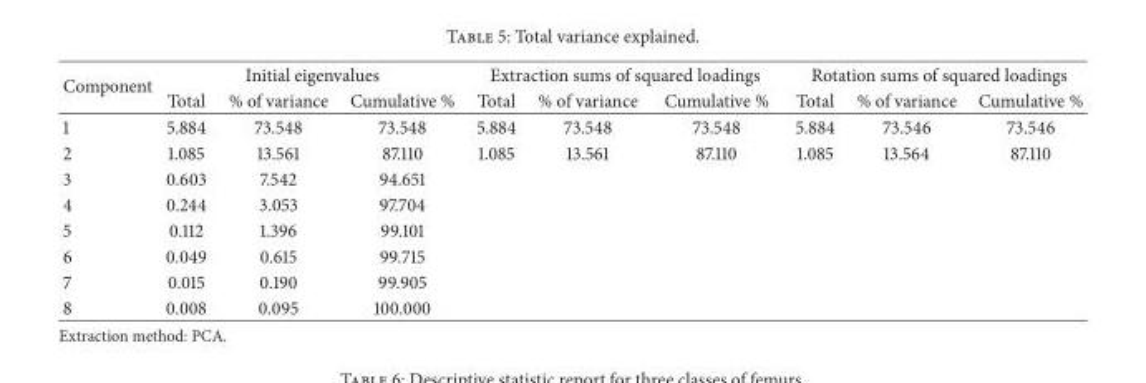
<table><thead><tr><td rowspan="2">Component</td><td colspan="3">Initial eigenvalues</td><td colspan="3">Extraction sums of squared loadings</td><td colspan="3">Rotation sums of squared loadings</td></tr><tr><td>Total</td><td>% of variance</td><td>Cumulative %</td><td>Total</td><td>% of variance</td><td>Cumulative %</td><td>Total</td><td>% of variance</td><td>Cumulative %</td></tr></thead><tbody><tr><td>1</td><td>5.884</td><td>73.548</td><td>73.548</td><td>5.884</td><td>73.548</td><td>73.548</td><td>5.884</td><td>73.546</td><td>73.546</td></tr><tr><td>2</td><td>1.085</td><td>13.561</td><td>87.110</td><td>1.085</td><td>13.561</td><td>87.110</td><td>1.085</td><td>13.564</td><td>87.110</td></tr><tr><td>3</td><td>0.603</td><td>7.542</td><td>94.651</td><td></td><td></td><td></td><td></td><td></td><td></td></tr><tr><td>4</td><td>0.244</td><td>3.053</td><td>97.704</td><td></td><td></td><td></td><td></td><td></td><td></td></tr><tr><td>5</td><td>0.112</td><td>1.396</td><td>99.101</td><td></td><td></td><td></td><td></td><td></td><td></td></tr><tr><td>6</td><td>0.049</td><td>0.615</td><td>99.715</td><td></td><td></td><td></td><td></td><td></td><td></td></tr><tr><td>7</td><td>0.015</td><td>0.190</td><td>99.905</td><td></td><td></td><td></td><td></td><td></td><td></td></tr><tr><td>8</td><td>0.008</td><td>0.095</td><td>100.000</td><td></td><td></td><td></td><td></td><td></td><td></td></tr></tbody></table>